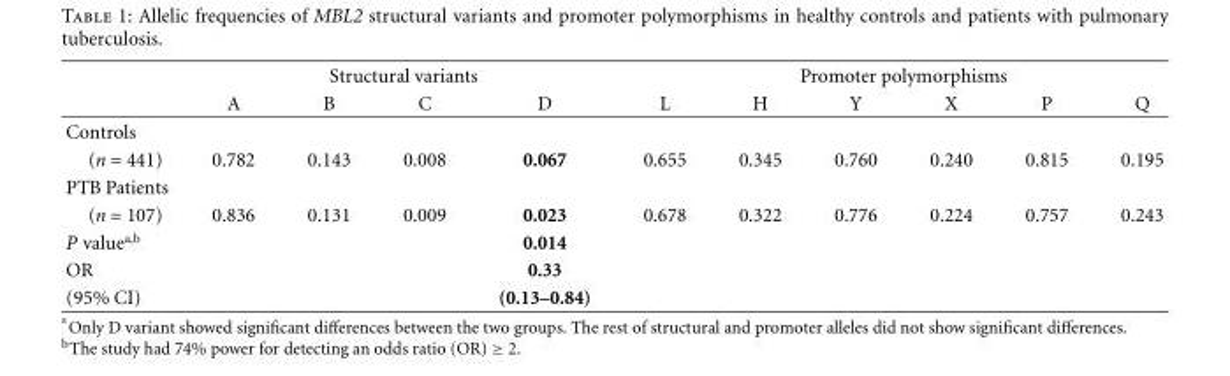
<table><thead><tr><td rowspan="2"></td><td colspan="4">Structural variants</td><td colspan="6">Promoter polymorphisms</td></tr><tr><td>A</td><td>B</td><td>C</td><td>D</td><td>L</td><td>H</td><td>Y</td><td>X</td><td>P</td><td>Q</td></tr></thead><tbody><tr><td colspan="11">Controls</td></tr><tr><td>(n = 441)</td><td>0.782</td><td>0.143</td><td>0.008</td><td>0.067</td><td>0.655</td><td>0.345</td><td>0.760</td><td>0.240</td><td>0.815</td><td>0.195</td></tr><tr><td colspan="11">PTB Patients</td></tr><tr><td>(n = 107)</td><td>0.836</td><td>0.131</td><td>0.009</td><td>0.023</td><td>0.678</td><td>0.322</td><td>0.776</td><td>0.224</td><td>0.757</td><td>0.243</td></tr><tr><td>P value<sup>a,b</sup></td><td></td><td></td><td></td><td>0.014</td><td></td><td></td><td></td><td></td><td></td><td></td></tr><tr><td>OR</td><td></td><td></td><td></td><td>0.33</td><td></td><td></td><td></td><td></td><td></td><td></td></tr><tr><td>(95% CI)</td><td></td><td></td><td></td><td>(0.13–0.84)</td><td></td><td></td><td></td><td></td><td></td><td></td></tr></tbody></table>